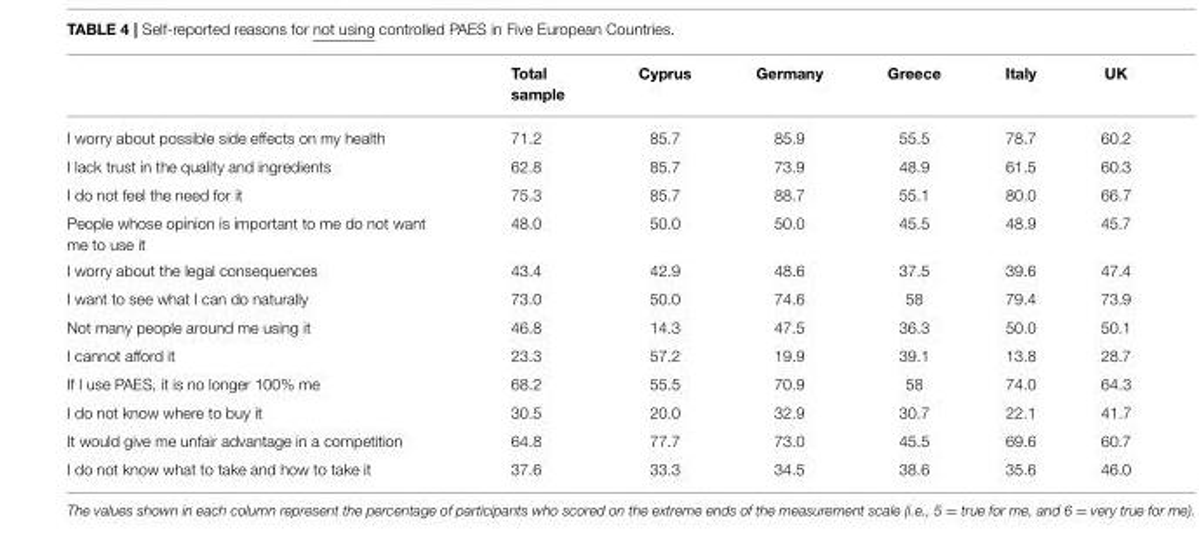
<table><thead><tr><td></td><td>Total sample</td><td>Cyprus</td><td>Germany</td><td>Greece</td><td>Italy</td><td>UK</td></tr></thead><tbody><tr><td>I worry about possible side effects on my health</td><td>71.2</td><td>85.7</td><td>85.9</td><td>55.5</td><td>78.7</td><td>60.2</td></tr><tr><td>I lack trust in the quality and ingredients</td><td>62.8</td><td>85.7</td><td>73.9</td><td>48.9</td><td>61.5</td><td>60.3</td></tr><tr><td>I do not feel the need for it</td><td>75.3</td><td>85.7</td><td>88.7</td><td>55.1</td><td>80.0</td><td>66.7</td></tr><tr><td>People whose opinion is important to me do not want me to use it</td><td>48.0</td><td>50.0</td><td>50.0</td><td>45.5</td><td>48.9</td><td>45.7</td></tr><tr><td>I worry about the legal consequences</td><td>43.4</td><td>42.9</td><td>48.6</td><td>37.5</td><td>39.6</td><td>47.4</td></tr><tr><td>I want to see what I can do naturally</td><td>73.0</td><td>50.0</td><td>74.6</td><td>58</td><td>79.4</td><td>73.9</td></tr><tr><td>Not many people around me using it</td><td>46.8</td><td>14.3</td><td>47.5</td><td>36.3</td><td>50.0</td><td>50.1</td></tr><tr><td>I cannot afford it</td><td>23.3</td><td>57.2</td><td>19.9</td><td>39.1</td><td>13.8</td><td>28.7</td></tr><tr><td>If I use PAES, it is no longer 100% me</td><td>68.2</td><td>55.5</td><td>70.9</td><td>58</td><td>74.0</td><td>64.3</td></tr><tr><td>I do not know where to buy it</td><td>30.5</td><td>20.0</td><td>32.9</td><td>30.7</td><td>22.1</td><td>41.7</td></tr><tr><td>It would give me unfair advantage in a competition</td><td>64.8</td><td>77.7</td><td>73.0</td><td>45.5</td><td>69.6</td><td>60.7</td></tr><tr><td>I do not know what to take and how to take it</td><td>37.6</td><td>33.3</td><td>34.5</td><td>38.6</td><td>35.6</td><td>46.0</td></tr></tbody></table>